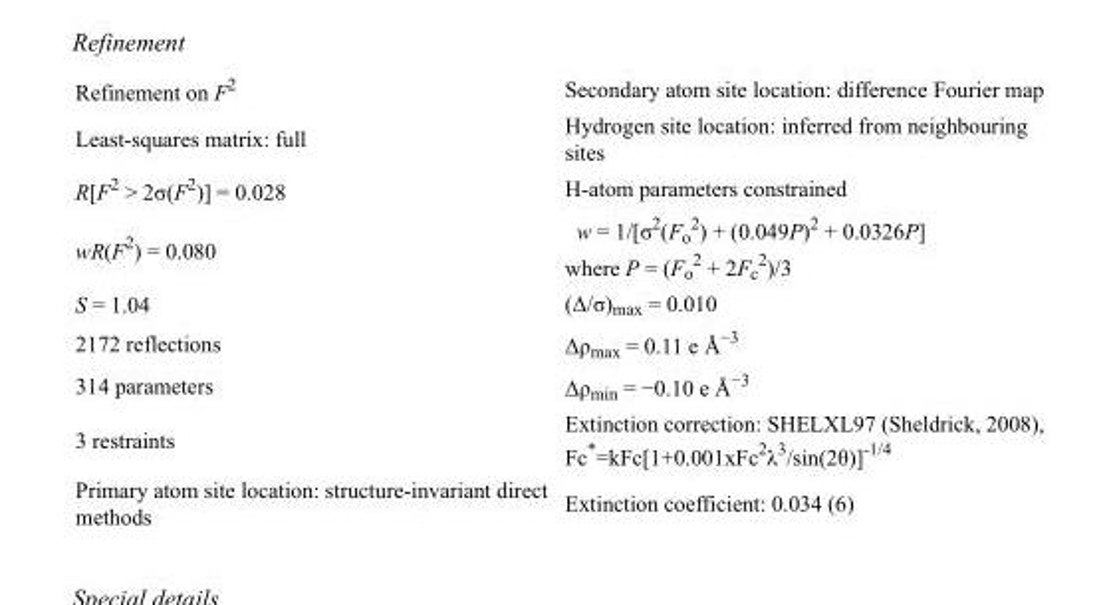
<table><tbody><tr><td>Refinement on F<sup>2</sup></td><td>Secondary atom site location: difference Fourier map</td></tr><tr><td>Least-squares matrix: full</td><td>Hydrogen site location: inferred from neighbouring sites</td></tr><tr><td>R[F<sup>2</sup> &gt; 2σ(F<sup>2</sup>)] = 0.028</td><td>H-atom parameters constrained</td></tr><tr><td>wR(F<sup>2</sup>) = 0.080</td><td>w = 1/[σ<sup>2</sup>(F<sub>o</sub> <sup>2</sup>) + (0.049P)<sup>2</sup> + 0.0326P] where P = (F<sub>o</sub> <sup>2</sup> + 2F<sub>c</sub> <sup>2</sup>)/3</td></tr><tr><td>S = 1.04</td><td>(Δ/σ)<sub>max</sub> = 0.010</td></tr><tr><td>2172 reflections</td><td>Δρ<sub>max</sub> = 0.11 e Å<sup>−3</sup></td></tr><tr><td>314 parameters</td><td>Δρ<sub>min</sub> = −0.10 e Å<sup>−3</sup></td></tr><tr><td>3 restraints</td><td>Extinction correction: SHELXL97 (Sheldrick, 2008), Fc*=kFc[1+0.001xFc<sup>2</sup>λ<sup>3</sup>/sin(2θ)]<sup>-1/4</sup></td></tr><tr><td>Primary atom site location: structure-invariant direct methods</td><td>Extinction coefficient: 0.034 (6)</td></tr></tbody></table>